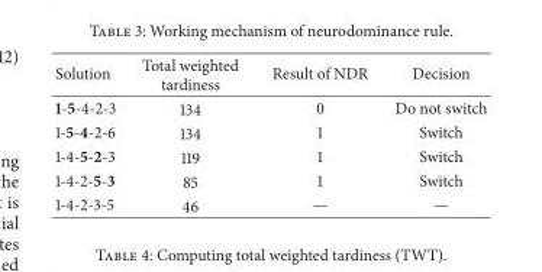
<table><thead><tr><td>Solution</td><td>Total weighted tardiness</td><td>Result of NDR</td><td>Decision</td></tr></thead><tbody><tr><td>1-5-4-2-3</td><td>134</td><td>0</td><td>Do not switch</td></tr><tr><td>1-5-4-2-6</td><td>134</td><td>1</td><td>Switch</td></tr><tr><td>1-4-5-2-3</td><td>119</td><td>1</td><td>Switch</td></tr><tr><td>1-4-2-5-3</td><td>85</td><td>1</td><td>Switch</td></tr><tr><td>1-4-2-3-5</td><td>46</td><td>—</td><td>—</td></tr></tbody></table>